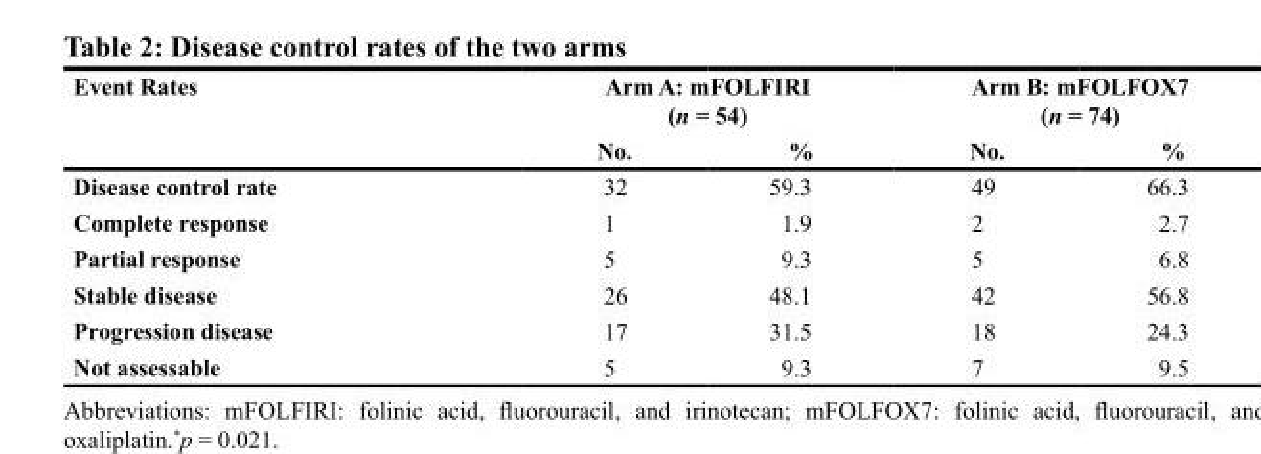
<table><thead><tr><td rowspan="2">Event Rates</td><td colspan="2">Arm A: mFOLFIRI (n = 54)</td><td colspan="2">Arm B: mFOLFOX7 (n = 74)</td></tr><tr><td>No.</td><td>%</td><td>No.</td><td>%</td></tr></thead><tbody><tr><td>Disease control rate</td><td>32</td><td>59.3</td><td>49</td><td>66.3</td></tr><tr><td>Complete response</td><td>1</td><td>1.9</td><td>2</td><td>2.7</td></tr><tr><td>Partial response</td><td>5</td><td>9.3</td><td>5</td><td>6.8</td></tr><tr><td>Stable disease</td><td>26</td><td>48.1</td><td>42</td><td>56.8</td></tr><tr><td>Progression disease</td><td>17</td><td>31.5</td><td>18</td><td>24.3</td></tr><tr><td>Not assessable</td><td>5</td><td>9.3</td><td>7</td><td>9.5</td></tr></tbody></table>